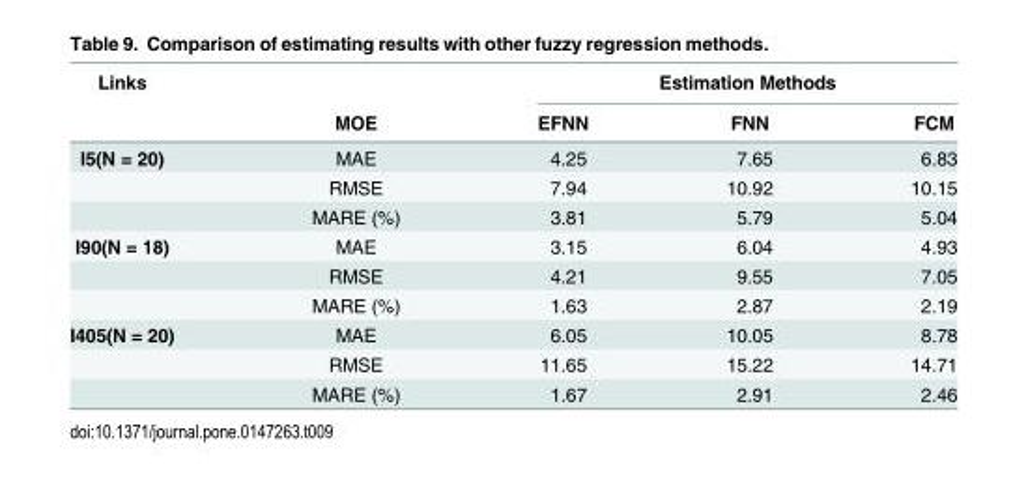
<table><thead><tr><td rowspan="2">Links</td><td rowspan="2">MOE</td><td colspan="3">Estimation Methods</td></tr><tr><td>EFNN</td><td>FNN</td><td>FCM</td></tr></thead><tbody><tr><td rowspan="3">I5(N = 20)</td><td>MAE</td><td>4.25</td><td>7.65</td><td>6.83</td></tr><tr><td>RMSE</td><td>7.94</td><td>10.92</td><td>10.15</td></tr><tr><td>MARE (%)</td><td>3.81</td><td>5.79</td><td>5.04</td></tr><tr><td rowspan="3">I90(N = 18)</td><td>MAE</td><td>3.15</td><td>6.04</td><td>4.93</td></tr><tr><td>RMSE</td><td>4.21</td><td>9.55</td><td>7.05</td></tr><tr><td>MARE (%)</td><td>1.63</td><td>2.87</td><td>2.19</td></tr><tr><td rowspan="3">I405(N = 20)</td><td>MAE</td><td>6.05</td><td>10.05</td><td>8.78</td></tr><tr><td>RMSE</td><td>11.65</td><td>15.22</td><td>14.71</td></tr><tr><td>MARE (%)</td><td>1.67</td><td>2.91</td><td>2.46</td></tr></tbody></table>